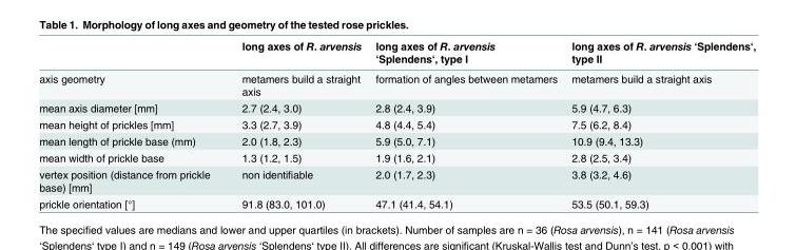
<table><thead><tr><td></td><td>long axes of R. arvensis</td><td>long axes of R. arvensis ‘Splendens‘, type I</td><td>long axes of R. arvensis ‘Splendens‘, type II</td></tr></thead><tbody><tr><td>axis geometry</td><td>metamers build a straight axis</td><td>formation of angles between metamers</td><td>metamers build a straight axis</td></tr><tr><td>mean axis diameter [mm]</td><td>2.7 (2.4, 3.0)</td><td>2.8 (2.4, 3.9)</td><td>5.9 (4.7, 6.3)</td></tr><tr><td>mean height of prickles [mm]</td><td>3.3 (2.7, 3.9)</td><td>4.8 (4.4, 5.4)</td><td>7.5 (6.2, 8.4)</td></tr><tr><td>mean length of prickle base (mm)</td><td>2.0 (1.8, 2.3)</td><td>5.9 (5.0, 7.1)</td><td>10.9 (9.4, 13.3)</td></tr><tr><td>mean width of prickle base</td><td>1.3 (1.2, 1.5)</td><td>1.9 (1.6, 2.1)</td><td>2.8 (2.5, 3.4)</td></tr><tr><td>vertex position (distance from prickle base) [mm]</td><td>non identifiable</td><td>2.0 (1.7, 2.3)</td><td>3.8 (3.2, 4.6)</td></tr><tr><td>prickle orientation [°]</td><td>91.8 (83.0, 101.0)</td><td>47.1 (41.4, 54.1)</td><td>53.5 (50.1, 59.3)</td></tr></tbody></table>